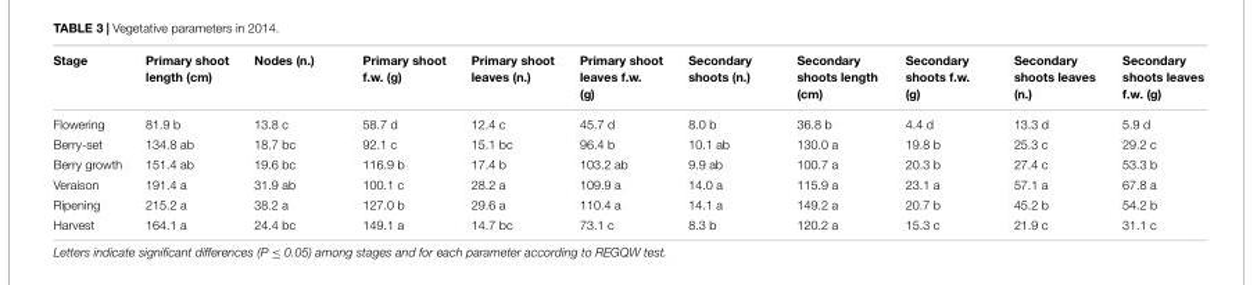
<table><thead><tr><td>Stage</td><td>Primary shoot length (cm)</td><td>Nodes (n.)</td><td>Primary shoot f.w. (g)</td><td>Primary shoot leaves (n.)</td><td>Primary shoot leaves f.w. (g)</td><td>Secondary shoots (n.)</td><td>Secondary shoots length (cm)</td><td>Secondary shoots f.w. (g)</td><td>Secondary shoots leaves (n.)</td><td>Secondary shoots leaves f.w. (g)</td></tr></thead><tbody><tr><td>Flowering</td><td>81.9 b</td><td>13.8 c</td><td>58.7 d</td><td>12.4 c</td><td>45.7 d</td><td>8.0 b</td><td>36.8 b</td><td>4.4 d</td><td>13.3 d</td><td>5.9 d</td></tr><tr><td>Berry-set</td><td>134.8 ab</td><td>18.7 bc</td><td>92.1 c</td><td>15.1 bc</td><td>96.4 b</td><td>10.1 ab</td><td>130.0 a</td><td>19.8 b</td><td>25.3 c</td><td>29.2 c</td></tr><tr><td>Berry growth</td><td>151.4 ab</td><td>19.6 bc</td><td>116.9 b</td><td>17.4 b</td><td>103.2 ab</td><td>9.9 ab</td><td>100.7 a</td><td>20.3 b</td><td>27.4 c</td><td>53.3 b</td></tr><tr><td>Veraison</td><td>191.4 a</td><td>31.9 ab</td><td>100.1 c</td><td>28.2 a</td><td>109.9 a</td><td>14.0 a</td><td>115.9 a</td><td>23.1 a</td><td>57.1 a</td><td>67.8 a</td></tr><tr><td>Ripening</td><td>215.2 a</td><td>38.2 a</td><td>127.0 b</td><td>29.6 a</td><td>110.4 a</td><td>14.1 a</td><td>149.2 a</td><td>20.7 b</td><td>45.2 b</td><td>54.2 b</td></tr><tr><td>Harvest</td><td>164.1 a</td><td>24.4 bc</td><td>149.1 a</td><td>14.7 bc</td><td>73.1 c</td><td>8.3 b</td><td>120.2 a</td><td>15.3 c</td><td>21.9 c</td><td>31.1 c</td></tr></tbody></table>